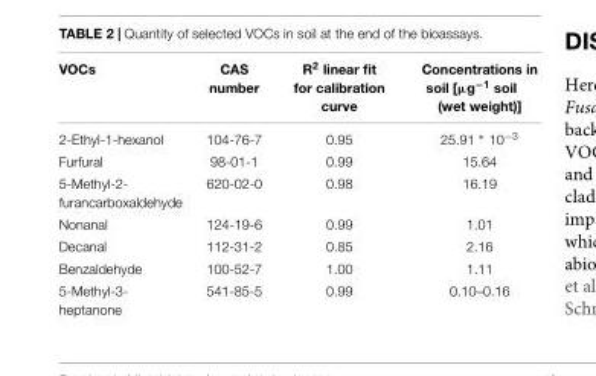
<table><thead><tr><td>VOCs</td><td>CAS number</td><td>R<sup>2</sup> linear fit for calibration curve</td><td>Concentrations in soil [µg<sup>−1</sup> soil (wet weight)]</td></tr></thead><tbody><tr><td>2-Ethyl-1-hexanol</td><td>104-76-7</td><td>0.95</td><td>25.91 ∗ 10<sup>−3</sup></td></tr><tr><td>Furfural</td><td>98-01-1</td><td>0.99</td><td>15.64</td></tr><tr><td>5-Methyl-2- furancarboxaldehyde</td><td>620-02-0</td><td>0.98</td><td>16.19</td></tr><tr><td>Nonanal</td><td>124-19-6</td><td>0.99</td><td>1.01</td></tr><tr><td>Decanal</td><td>112-31-2</td><td>0.85</td><td>2.16</td></tr><tr><td>Benzaldehyde</td><td>100-52-7</td><td>1.00</td><td>1.11</td></tr><tr><td>5-Methyl-3- heptanone</td><td>541-85-5</td><td>0.99</td><td>0.10–0.16</td></tr></tbody></table>